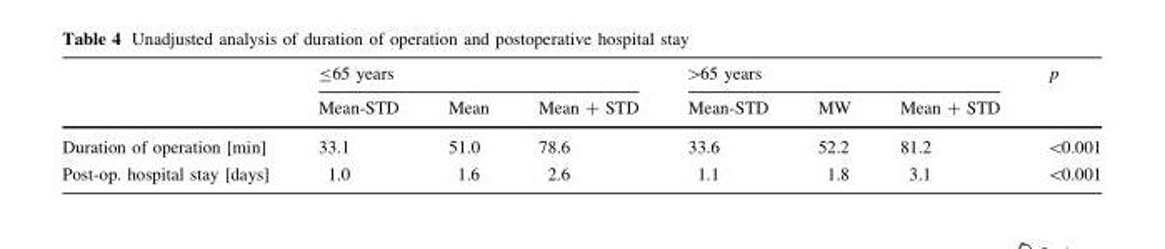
<table><thead><tr><td rowspan="2"></td><td colspan="3">≤65 years</td><td colspan="3">&gt;65 years</td><td rowspan="2">p</td></tr><tr><td>Mean-STD</td><td>Mean</td><td>Mean + STD</td><td>Mean-STD</td><td>MW</td><td>Mean + STD</td></tr></thead><tbody><tr><td>Duration of operation [min]</td><td>33.1</td><td>51.0</td><td>78.6</td><td>33.6</td><td>52.2</td><td>81.2</td><td>&lt;0.001</td></tr><tr><td>Post-op. hospital stay [days]</td><td>1.0</td><td>1.6</td><td>2.6</td><td>1.1</td><td>1.8</td><td>3.1</td><td>&lt;0.001</td></tr></tbody></table>